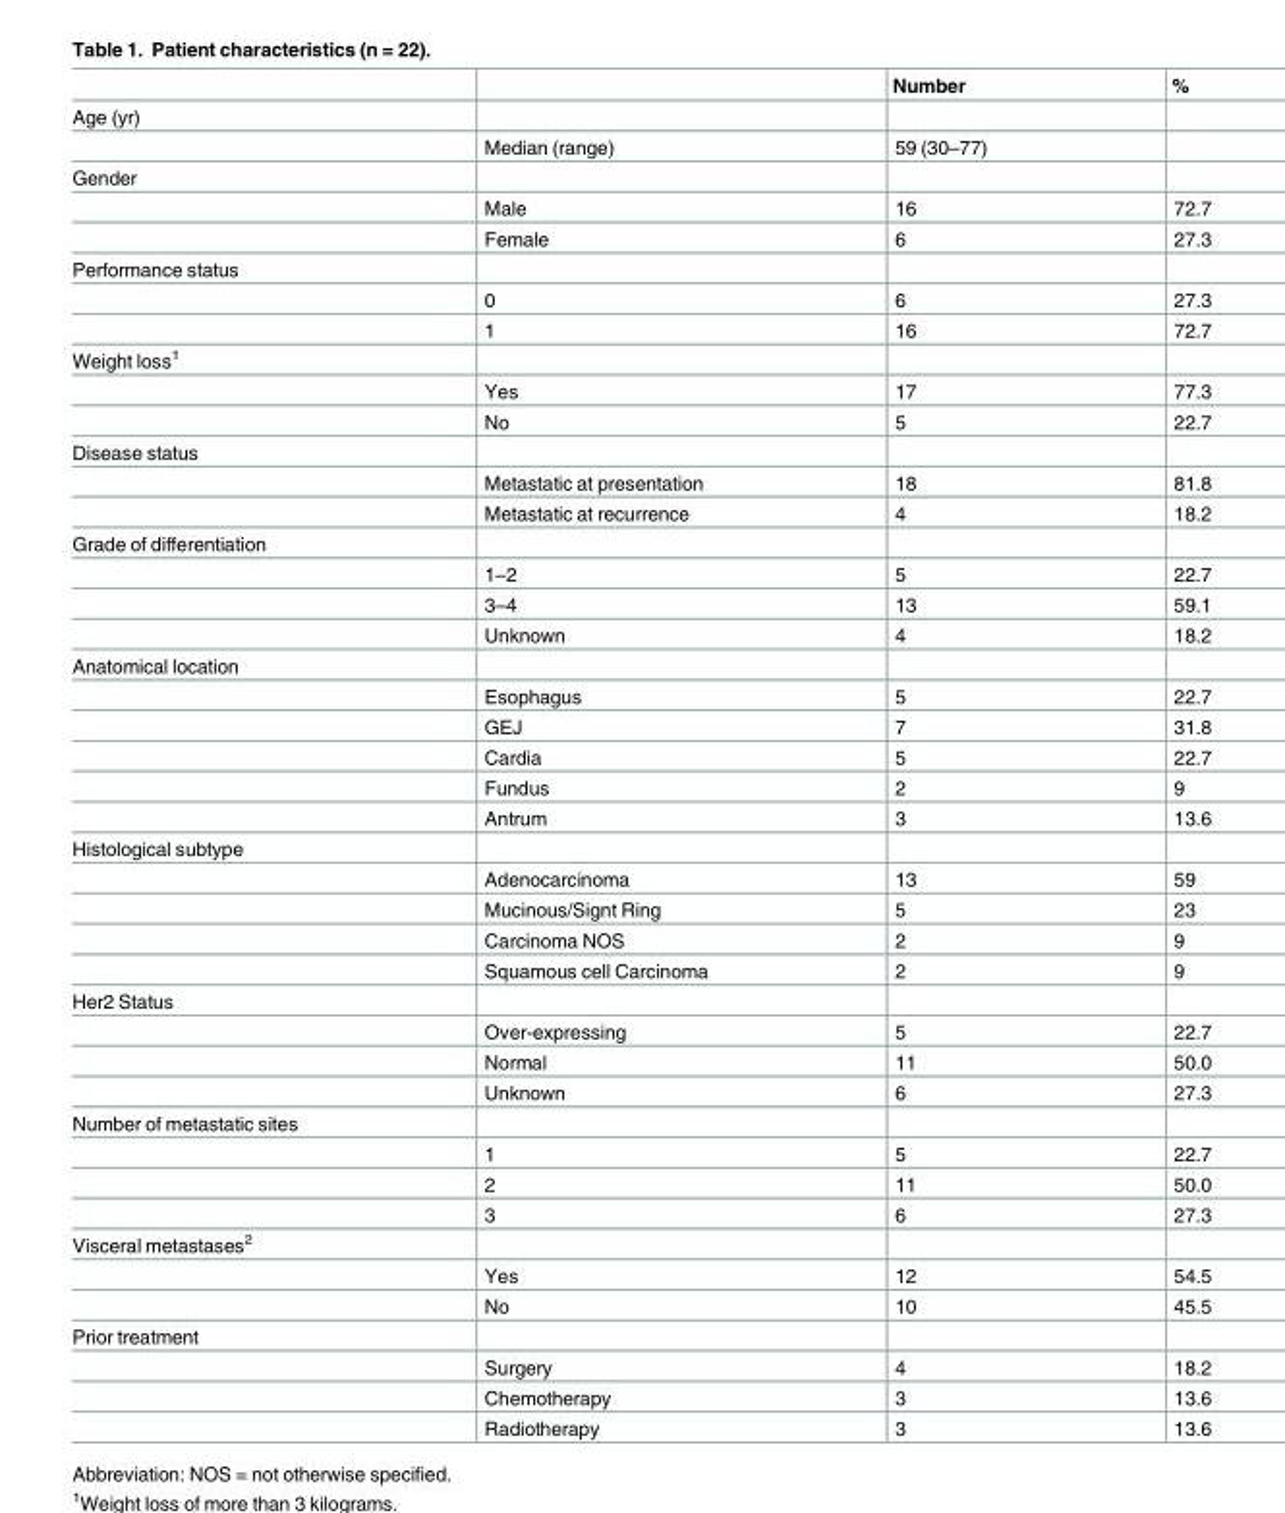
<table><thead><tr><td></td><td></td><td>Number</td><td>%</td></tr></thead><tbody><tr><td colspan="4">Age (yr)</td></tr><tr><td></td><td>Median (range)</td><td>59 (30–77)</td><td></td></tr><tr><td colspan="4">Gender</td></tr><tr><td></td><td>Male</td><td>16</td><td>72.7</td></tr><tr><td></td><td>Female</td><td>6</td><td>27.3</td></tr><tr><td colspan="4">Performance status</td></tr><tr><td></td><td>0</td><td>6</td><td>27.3</td></tr><tr><td></td><td>1</td><td>16</td><td>72.7</td></tr><tr><td colspan="4">Weight loss<sup>1</sup></td></tr><tr><td></td><td>Yes</td><td>17</td><td>77.3</td></tr><tr><td></td><td>No</td><td>5</td><td>22.7</td></tr><tr><td colspan="4">Disease status</td></tr><tr><td></td><td>Metastatic at presentation</td><td>18</td><td>81.8</td></tr><tr><td></td><td>Metastatic at recurrence</td><td>4</td><td>18.2</td></tr><tr><td colspan="4">Grade of differentiation</td></tr><tr><td></td><td>1–2</td><td>5</td><td>22.7</td></tr><tr><td></td><td>3–4</td><td>13</td><td>59.1</td></tr><tr><td></td><td>Unknown</td><td>4</td><td>18.2</td></tr><tr><td colspan="4">Anatomical location</td></tr><tr><td></td><td>Esophagus</td><td>5</td><td>22.7</td></tr><tr><td></td><td>GEJ</td><td>7</td><td>31.8</td></tr><tr><td></td><td>Cardia</td><td>5</td><td>22.7</td></tr><tr><td></td><td>Fundus</td><td>2</td><td>9</td></tr><tr><td></td><td>Antrum</td><td>3</td><td>13.6</td></tr><tr><td colspan="4">Histological subtype</td></tr><tr><td></td><td>Adenocarcinoma</td><td>13</td><td>59</td></tr><tr><td></td><td>Mucinous/Signt Ring</td><td>5</td><td>23</td></tr><tr><td></td><td>Carcinoma NOS</td><td>2</td><td>9</td></tr><tr><td></td><td>Squamous cell Carcinoma</td><td>2</td><td>9</td></tr><tr><td colspan="4">Her2 Status</td></tr><tr><td></td><td>Over-expressing</td><td>5</td><td>22.7</td></tr><tr><td></td><td>Normal</td><td>11</td><td>50.0</td></tr><tr><td></td><td>Unknown</td><td>6</td><td>27.3</td></tr><tr><td colspan="4">Number of metastatic sites</td></tr><tr><td></td><td>1</td><td>5</td><td>22.7</td></tr><tr><td></td><td>2</td><td>11</td><td>50.0</td></tr><tr><td></td><td>3</td><td>6</td><td>27.3</td></tr><tr><td colspan="4">Visceral metastases<sup>2</sup></td></tr><tr><td></td><td>Yes</td><td>12</td><td>54.5</td></tr><tr><td></td><td>No</td><td>10</td><td>45.5</td></tr><tr><td colspan="4">Prior treatment</td></tr><tr><td></td><td>Surgery</td><td>4</td><td>18.2</td></tr><tr><td></td><td>Chemotherapy</td><td>3</td><td>13.6</td></tr><tr><td></td><td>Radiotherapy</td><td>3</td><td>13.6</td></tr></tbody></table>